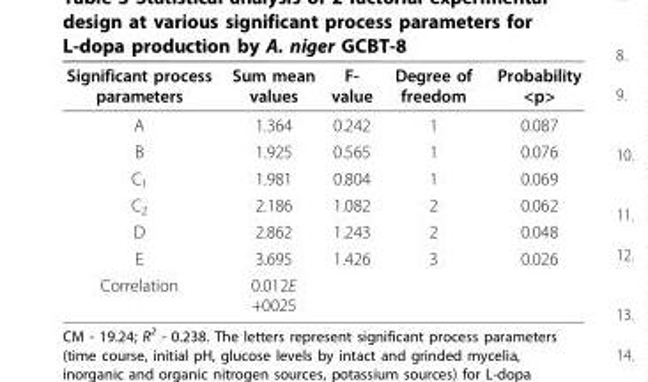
<table><thead><tr><td>Significant process parameters</td><td>Sum mean values</td><td>F- value</td><td>Degree of freedom</td><td>Probability &lt;p&gt;</td></tr></thead><tbody><tr><td>A</td><td>1.364</td><td>0.242</td><td>1</td><td>0.087</td></tr><tr><td>B</td><td>1.925</td><td>0.565</td><td>1</td><td>0.076</td></tr><tr><td>C<sub>1</sub></td><td>1.981</td><td>0.804</td><td>1</td><td>0.069</td></tr><tr><td>C<sub>2</sub></td><td>2.186</td><td>1.082</td><td>2</td><td>0.062</td></tr><tr><td>D</td><td>2.862</td><td>1.243</td><td>2</td><td>0.048</td></tr><tr><td>E</td><td>3.695</td><td>1.426</td><td>3</td><td>0.026</td></tr><tr><td>Correlation</td><td>0.012E +0025</td><td></td><td></td><td></td></tr></tbody></table>